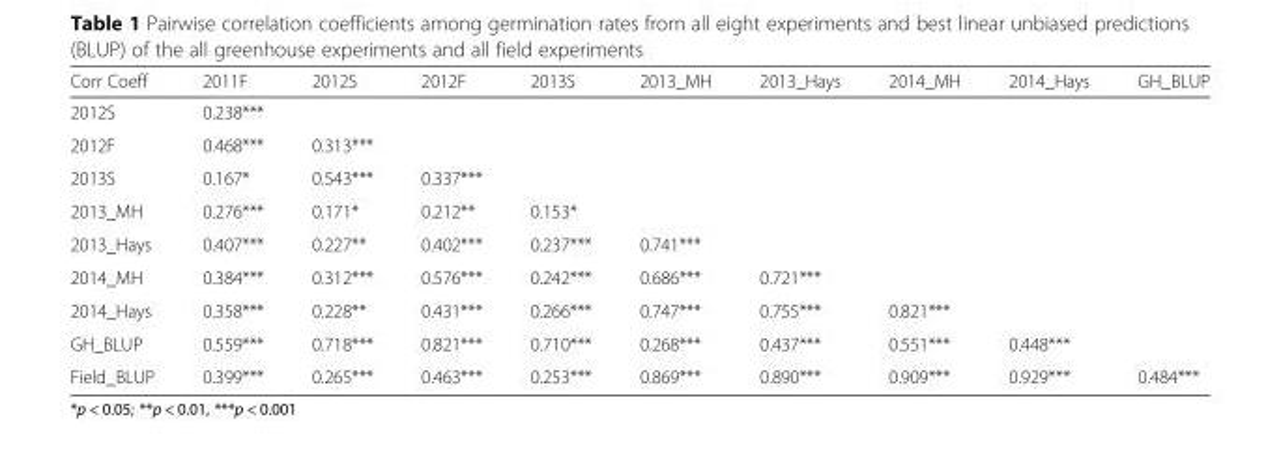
<table><thead><tr><td>Corr Coeff</td><td>2011F</td><td>2012S</td><td>2012F</td><td>2013S</td><td>2013_MH</td><td>2013_Hays</td><td>2014_MH</td><td>2014_Hays</td><td>GH_BLUP</td></tr></thead><tbody><tr><td>2012S</td><td>0.238***</td><td></td><td></td><td></td><td></td><td></td><td></td><td></td><td></td></tr><tr><td>2012F</td><td>0.468***</td><td>0.313***</td><td></td><td></td><td></td><td></td><td></td><td></td><td></td></tr><tr><td>2013S</td><td>0.167*</td><td>0.543***</td><td>0.337***</td><td></td><td></td><td></td><td></td><td></td><td></td></tr><tr><td>2013_MH</td><td>0.276***</td><td>0.171*</td><td>0.212**</td><td>0.153*</td><td></td><td></td><td></td><td></td><td></td></tr><tr><td>2013_Hays</td><td>0.407***</td><td>0.227**</td><td>0.402***</td><td>0.237***</td><td>0.741***</td><td></td><td></td><td></td><td></td></tr><tr><td>2014_MH</td><td>0.384***</td><td>0.312***</td><td>0.576***</td><td>0.242***</td><td>0.686***</td><td>0.721***</td><td></td><td></td><td></td></tr><tr><td>2014_Hays</td><td>0.358***</td><td>0.228**</td><td>0.431***</td><td>0.266***</td><td>0.747***</td><td>0.755***</td><td>0.821***</td><td></td><td></td></tr><tr><td>GH_BLUP</td><td>0.559***</td><td>0.718***</td><td>0.821***</td><td>0.710***</td><td>0.268***</td><td>0.437***</td><td>0.551***</td><td>0.448***</td><td></td></tr><tr><td>Field_BLUP</td><td>0.399***</td><td>0.265***</td><td>0.463***</td><td>0.253***</td><td>0.869***</td><td>0.890***</td><td>0.909***</td><td>0.929***</td><td>0.484***</td></tr></tbody></table>